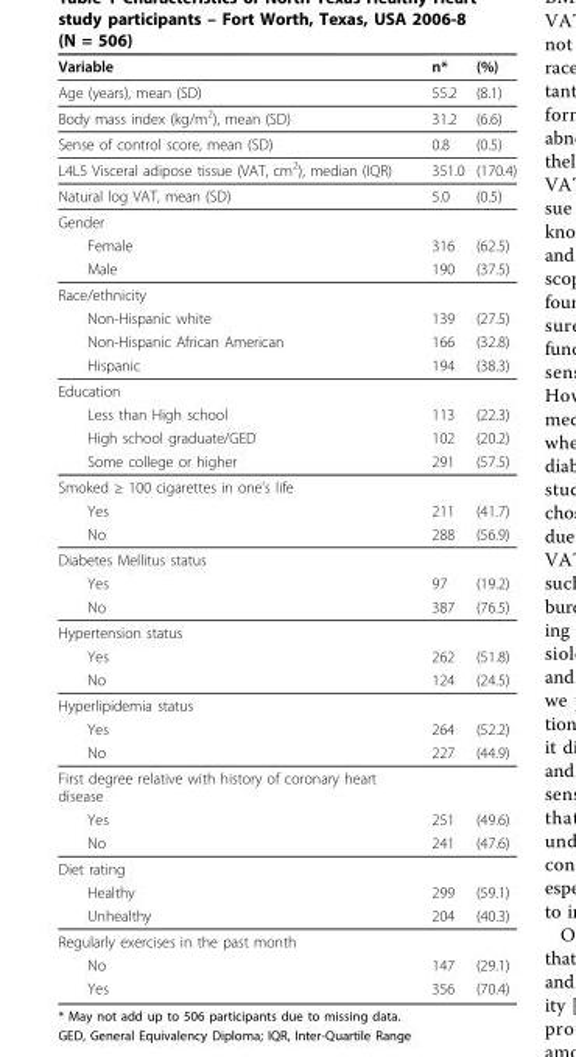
<table><thead><tr><td>Variable</td><td>n*</td><td>(%)</td></tr></thead><tbody><tr><td>Age (years), mean (SD)</td><td>55.2</td><td>(8.1)</td></tr><tr><td>Body mass index (kg/m<sup>2</sup>), mean (SD)</td><td>31.2</td><td>(6.6)</td></tr><tr><td>Sense of control score, mean (SD)</td><td>0.8</td><td>(0.5)</td></tr><tr><td>L4L5 Visceral adipose tissue (VAT, cm<sup>2</sup>), median (IQR)</td><td>351.0</td><td>(170.4)</td></tr><tr><td>Natural log VAT, mean (SD)</td><td>5.0</td><td>(0.5)</td></tr><tr><td colspan="3">Gender</td></tr><tr><td>Female</td><td>316</td><td>(62.5)</td></tr><tr><td>Male</td><td>190</td><td>(37.5)</td></tr><tr><td colspan="3">Race/ethnicity</td></tr><tr><td>Non-Hispanic white</td><td>139</td><td>(27.5)</td></tr><tr><td>Non-Hispanic African American</td><td>166</td><td>(32.8)</td></tr><tr><td>Hispanic</td><td>194</td><td>(38.3)</td></tr><tr><td colspan="3">Education</td></tr><tr><td>Less than High school</td><td>113</td><td>(22.3)</td></tr><tr><td>High school graduate/GED</td><td>102</td><td>(20.2)</td></tr><tr><td>Some college or higher</td><td>291</td><td>(57.5)</td></tr><tr><td colspan="3">Smoked ≥ 100 cigarettes in one’s life</td></tr><tr><td>Yes</td><td>211</td><td>(41.7)</td></tr><tr><td>No</td><td>288</td><td>(56.9)</td></tr><tr><td colspan="3">Diabetes Mellitus status</td></tr><tr><td>Yes</td><td>97</td><td>(19.2)</td></tr><tr><td>No</td><td>387</td><td>(76.5)</td></tr><tr><td colspan="3">Hypertension status</td></tr><tr><td>Yes</td><td>262</td><td>(51.8)</td></tr><tr><td>No</td><td>124</td><td>(24.5)</td></tr><tr><td colspan="3">Hyperlipidemia status</td></tr><tr><td>Yes</td><td>264</td><td>(52.2)</td></tr><tr><td>No</td><td>227</td><td>(44.9)</td></tr><tr><td colspan="3">First degree relative with history of coronary heart disease</td></tr><tr><td>Yes</td><td>251</td><td>(49.6)</td></tr><tr><td>No</td><td>241</td><td>(47.6)</td></tr><tr><td colspan="3">Diet rating</td></tr><tr><td>Healthy</td><td>299</td><td>(59.1)</td></tr><tr><td>Unhealthy</td><td>204</td><td>(40.3)</td></tr><tr><td colspan="3">Regularly exercises in the past month</td></tr><tr><td>No</td><td>147</td><td>(29.1)</td></tr><tr><td>Yes</td><td>356</td><td>(70.4)</td></tr></tbody></table>